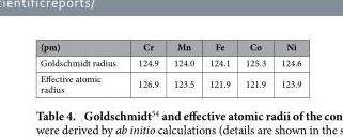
<table><thead><tr><td>(pm)</td><td>Cr</td><td>Mn</td><td>Fe</td><td>Co</td><td>Ni</td></tr></thead><tbody><tr><td>Goldschmidt radius</td><td>124.9</td><td>124.0</td><td>124.1</td><td>125.3</td><td>124.6</td></tr><tr><td>Effective atomic radius</td><td>126.9</td><td>123.5</td><td>121.9</td><td>121.9</td><td>123.9</td></tr></tbody></table>